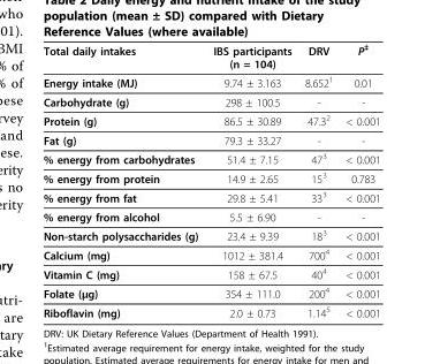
<table><thead><tr><td>Total daily intakes</td><td>IBS participants (n = 104)</td><td>DRV</td><td>P‡</td></tr></thead><tbody><tr><td>Energy intake (MJ)</td><td>9.74 ± 3.163</td><td>8.6521</td><td>0.01</td></tr><tr><td>Carbohydrate (g)</td><td>298 ± 100.5</td><td>-</td><td>-</td></tr><tr><td>Protein (g)</td><td>86.5 ± 30.89</td><td>47.32</td><td>&lt; 0.001</td></tr><tr><td>Fat (g)</td><td>79.3 ± 33.27</td><td>-</td><td>-</td></tr><tr><td>% energy from carbohydrates</td><td>51.4 ± 7.15</td><td>473</td><td>&lt; 0.001</td></tr><tr><td>% energy from protein</td><td>14.9 ± 2.65</td><td>153</td><td>0.783</td></tr><tr><td>% energy from fat</td><td>29.8 ± 5.41</td><td>333</td><td>&lt; 0.001</td></tr><tr><td>% energy from alcohol</td><td>5.5 ± 6.90</td><td>-</td><td>-</td></tr><tr><td>Non-starch polysaccharides (g)</td><td>23.4 ± 9.39</td><td>183</td><td>&lt; 0.001</td></tr><tr><td>Calcium (mg)</td><td>1012 ± 381.4</td><td>7004</td><td>&lt; 0.001</td></tr><tr><td>Vitamin C (mg)</td><td>158 ± 67.5</td><td>404</td><td>&lt; 0.001</td></tr><tr><td>Folate (μg)</td><td>354 ± 111.0</td><td>2004</td><td>&lt; 0.001</td></tr><tr><td>Riboflavin (mg)</td><td>2.0 ± 0.73</td><td>1.145</td><td>&lt; 0.001</td></tr></tbody></table>